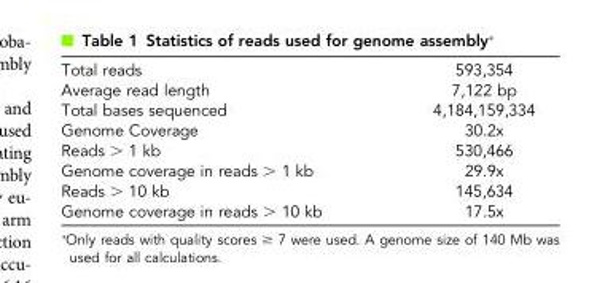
<table><tbody><tr><td>Total reads</td><td>593,354</td></tr><tr><td>Average read length</td><td>7,122 bp</td></tr><tr><td>Total bases sequenced</td><td>4,184,159,334</td></tr><tr><td>Genome Coverage</td><td>30.2x</td></tr><tr><td>Reads &gt; 1 kb</td><td>530,466</td></tr><tr><td>Genome coverage in reads &gt; 1 kb</td><td>29.9x</td></tr><tr><td>Reads &gt; 10 kb</td><td>145,634</td></tr><tr><td>Genome coverage in reads &gt; 10 kb</td><td>17.5x</td></tr></tbody></table>